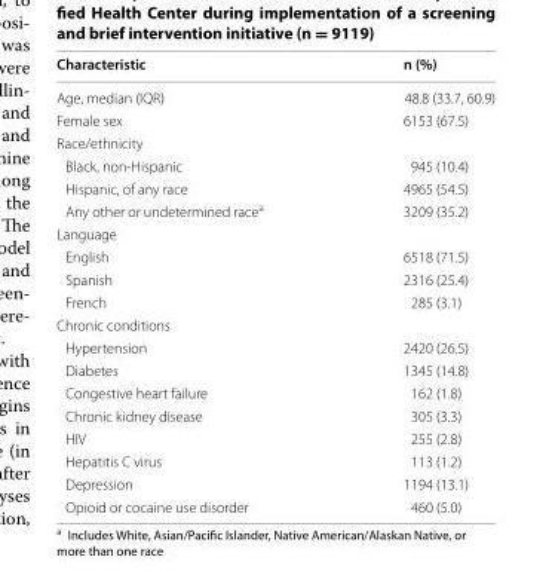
<table><thead><tr><td>Characteristic</td><td>n (%)</td></tr></thead><tbody><tr><td>Age, median (IQR)</td><td>48.8 (33.7, 60.9)</td></tr><tr><td>Female sex</td><td>6153 (67.5)</td></tr><tr><td colspan="2">Race/ethnicity</td></tr><tr><td>Black, non-Hispanic</td><td>945 (10.4)</td></tr><tr><td>Hispanic, of any race</td><td>4965 (54.5)</td></tr><tr><td>Any other or undetermined race<sup>a</sup></td><td>3209 (35.2)</td></tr><tr><td colspan="2">Language</td></tr><tr><td>English</td><td>6518 (71.5)</td></tr><tr><td>Spanish</td><td>2316 (25.4)</td></tr><tr><td>French</td><td>285 (3.1)</td></tr><tr><td colspan="2">Chronic conditions</td></tr><tr><td>Hypertension</td><td>2420 (26.5)</td></tr><tr><td>Diabetes</td><td>1345 (14.8)</td></tr><tr><td>Congestive heart failure</td><td>162 (1.8)</td></tr><tr><td>Chronic kidney disease</td><td>305 (3.3)</td></tr><tr><td>HIV</td><td>255 (2.8)</td></tr><tr><td>Hepatitis C virus</td><td>113 (1.2)</td></tr><tr><td>Depression</td><td>1194 (13.1)</td></tr><tr><td>Opioid or cocaine use disorder</td><td>460 (5.0)</td></tr></tbody></table>